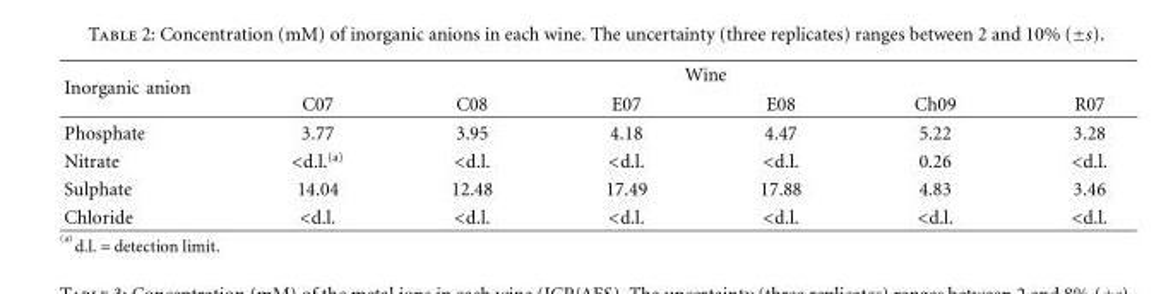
<table><thead><tr><td rowspan="2">Inorganic anion</td><td colspan="6">Wine</td></tr><tr><td>C07</td><td>C08</td><td>E07</td><td>E08</td><td>Ch09</td><td>R07</td></tr></thead><tbody><tr><td>Phosphate</td><td>3.77</td><td>3.95</td><td>4.18</td><td>4.47</td><td>5.22</td><td>3.28</td></tr><tr><td>Nitrate</td><td>&lt;d.l.<sup>(a)</sup></td><td>&lt;d.l.</td><td>&lt;d.l.</td><td>&lt;d.l.</td><td>0.26</td><td>&lt;d.l.</td></tr><tr><td>Sulphate</td><td>14.04</td><td>12.48</td><td>17.49</td><td>17.88</td><td>4.83</td><td>3.46</td></tr><tr><td>Chloride</td><td>&lt;d.l.</td><td>&lt;d.l.</td><td>&lt;d.l.</td><td>&lt;d.l.</td><td>&lt;d.l.</td><td>&lt;d.l.</td></tr></tbody></table>